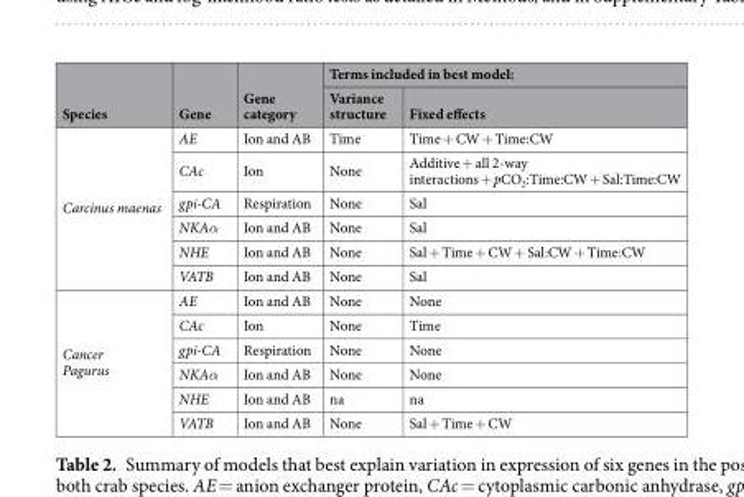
<table><thead><tr><td rowspan="2">Species</td><td rowspan="2">Gene</td><td rowspan="2">Gene category</td><td colspan="2">Terms included in best model:</td></tr><tr><td>Variance structure</td><td>Fixed effects</td></tr></thead><tbody><tr><td rowspan="6">Carcinus maenas</td><td>AE</td><td>Ion and AB</td><td>Time</td><td>Time + CW + Time:CW</td></tr><tr><td>CAc</td><td>Ion</td><td>None</td><td>Additive + all 2-way interactions + pCO<sub>2</sub>:Time:CW + Sal:Time:CW</td></tr><tr><td>gpi-CA</td><td>Respiration</td><td>None</td><td>Sal</td></tr><tr><td>NKAα</td><td>Ion and AB</td><td>None</td><td>Sal</td></tr><tr><td>NHE</td><td>Ion and AB</td><td>None</td><td>Sal + Time + CW + Sal:CW + Time:CW</td></tr><tr><td>VATB</td><td>Ion and AB</td><td>None</td><td>Sal</td></tr><tr><td rowspan="6">Cancer Pagurus</td><td>AE</td><td>Ion and AB</td><td>None</td><td>None</td></tr><tr><td>CAc</td><td>Ion</td><td>None</td><td>Time</td></tr><tr><td>gpi-CA</td><td>Respiration</td><td>None</td><td>None</td></tr><tr><td>NKAα</td><td>Ion and AB</td><td>None</td><td>None</td></tr><tr><td>NHE</td><td>Ion and AB</td><td>na</td><td>na</td></tr><tr><td>VATB</td><td>Ion and AB</td><td>None</td><td>Sal + Time + CW</td></tr></tbody></table>